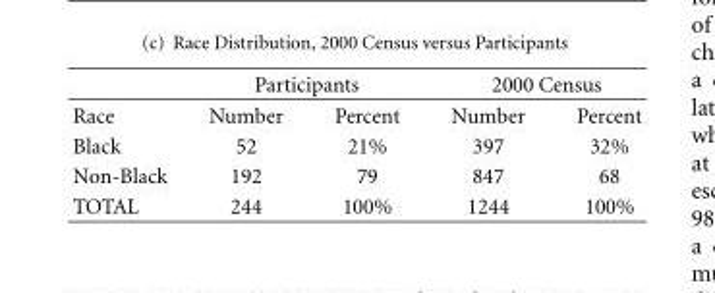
<table><thead><tr><td rowspan="2">Race</td><td colspan="2">Participants</td><td colspan="2">2000 Census</td></tr><tr><td>Number</td><td>Percent</td><td>Number</td><td>Percent</td></tr></thead><tbody><tr><td>Black</td><td>52</td><td>21%</td><td>397</td><td>32%</td></tr><tr><td>Non-Black</td><td>192</td><td>79</td><td>847</td><td>68</td></tr><tr><td>TOTAL</td><td>244</td><td>100%</td><td>1244</td><td>100%</td></tr></tbody></table>